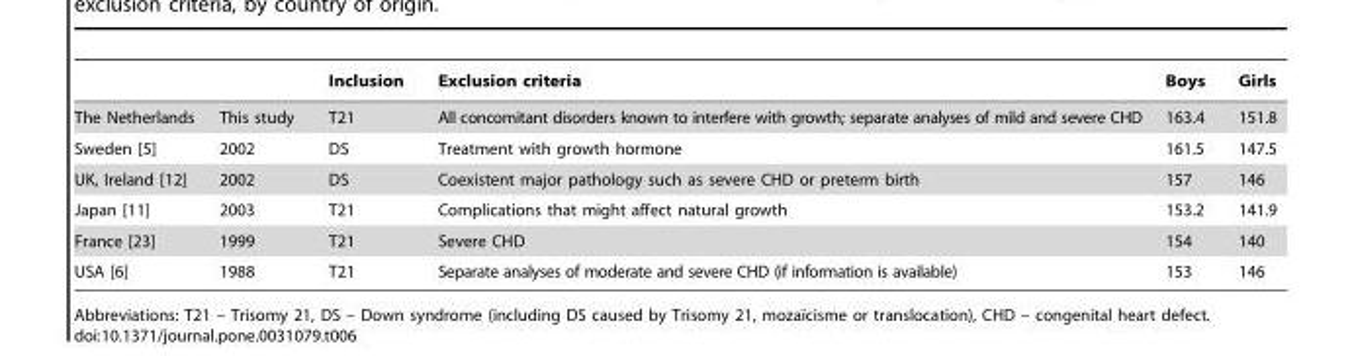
<table><thead><tr><td></td><td></td><td>Inclusion</td><td>Exclusion criteria</td><td>Boys</td><td>Girls</td></tr></thead><tbody><tr><td>The Netherlands</td><td>This study</td><td>T21</td><td>All concomitant disorders known to interfere with growth; separate analyses of mild and severe CHD</td><td>163.4</td><td>151.8</td></tr><tr><td>Sweden [5]</td><td>2002</td><td>DS</td><td>Treatment with growth hormone</td><td>161.5</td><td>147.5</td></tr><tr><td>UK, Ireland [12]</td><td>2002</td><td>DS</td><td>Coexistent major pathology such as severe CHD or preterm birth</td><td>157</td><td>146</td></tr><tr><td>Japan [11]</td><td>2003</td><td>T21</td><td>Complications that might affect natural growth</td><td>153.2</td><td>141.9</td></tr><tr><td>France [23]</td><td>1999</td><td>T21</td><td>Severe CHD</td><td>154</td><td>140</td></tr><tr><td>USA [6]</td><td>1988</td><td>T21</td><td>Separate analyses of moderate and severe CHD (if information is available)</td><td>153</td><td>146</td></tr></tbody></table>